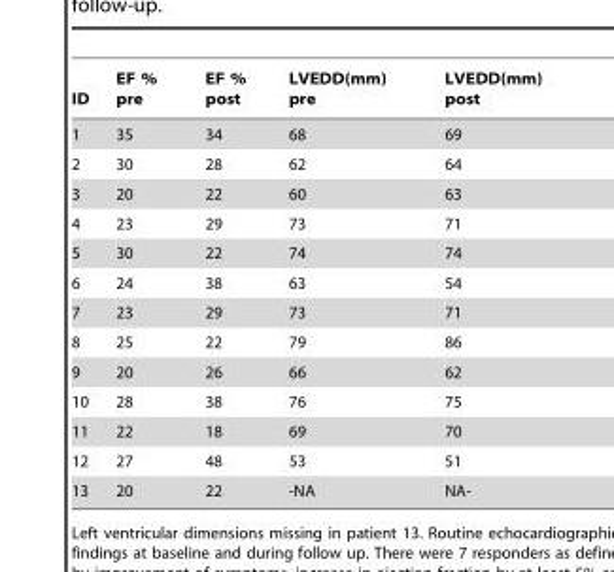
<table><thead><tr><td>ID</td><td>EF % pre</td><td>EF % post</td><td>LVEDD(mm) pre</td><td>LVEDD(mm) post</td></tr></thead><tbody><tr><td>1</td><td>35</td><td>34</td><td>68</td><td>69</td></tr><tr><td>2</td><td>30</td><td>28</td><td>62</td><td>64</td></tr><tr><td>3</td><td>20</td><td>22</td><td>60</td><td>63</td></tr><tr><td>4</td><td>23</td><td>29</td><td>73</td><td>71</td></tr><tr><td>5</td><td>30</td><td>22</td><td>74</td><td>74</td></tr><tr><td>6</td><td>24</td><td>38</td><td>63</td><td>54</td></tr><tr><td>7</td><td>23</td><td>29</td><td>73</td><td>71</td></tr><tr><td>8</td><td>25</td><td>22</td><td>79</td><td>86</td></tr><tr><td>9</td><td>20</td><td>26</td><td>66</td><td>62</td></tr><tr><td>10</td><td>28</td><td>38</td><td>76</td><td>75</td></tr><tr><td>11</td><td>22</td><td>18</td><td>69</td><td>70</td></tr><tr><td>12</td><td>27</td><td>48</td><td>53</td><td>51</td></tr><tr><td>13</td><td>20</td><td>22</td><td>-NA</td><td>NA-</td></tr></tbody></table>